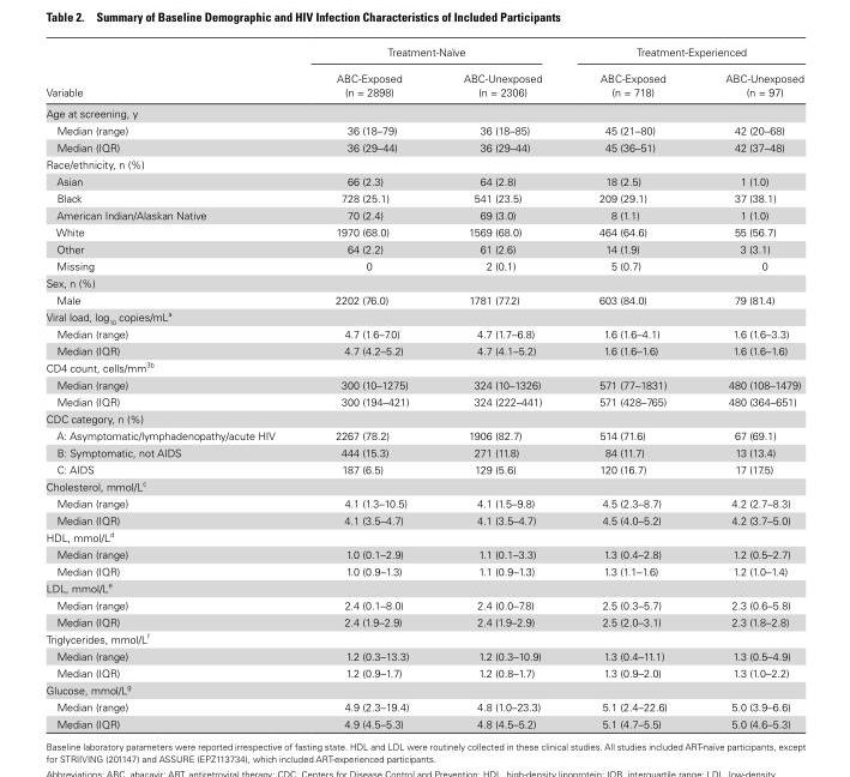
<table><thead><tr><td rowspan="2">Variable</td><td colspan="2">Treatment-Naïve</td><td colspan="2">Treatment-Experienced</td></tr><tr><td>ABC-Exposed (n = 2898)</td><td>ABC-Unexposed (n = 2306)</td><td>ABC-Exposed (n = 718)</td><td>ABC-Unexposed (n = 97)</td></tr></thead><tbody><tr><td colspan="5">Age at screening, y</td></tr><tr><td>Median (range)</td><td>36 (18–79)</td><td>36 (18–85)</td><td>45 (21–80)</td><td>42 (20–68)</td></tr><tr><td>Median (IQR)</td><td>36 (29–44)</td><td>36 (29–44)</td><td>45 (36–51)</td><td>42 (37–48)</td></tr><tr><td colspan="5">Race/ethnicity, n (%)</td></tr><tr><td>Asian</td><td>66 (2.3)</td><td>64 (2.8)</td><td>18 (2.5)</td><td>1 (1.0)</td></tr><tr><td>Black</td><td>728 (25.1)</td><td>541 (23.5)</td><td>209 (29.1)</td><td>37 (38.1)</td></tr><tr><td>American Indian/Alaskan Native</td><td>70 (2.4)</td><td>69 (3.0)</td><td>8 (1.1)</td><td>1 (1.0)</td></tr><tr><td>White</td><td>1970 (68.0)</td><td>1569 (68.0)</td><td>464 (64.6)</td><td>55 (56.7)</td></tr><tr><td>Other</td><td>64 (2.2)</td><td>61 (2.6)</td><td>14 (1.9)</td><td>3 (3.1)</td></tr><tr><td>Missing</td><td>0</td><td>2 (0.1)</td><td>5 (0.7)</td><td>0</td></tr><tr><td colspan="5">Sex, n (%)</td></tr><tr><td>Male</td><td>2202 (76.0)</td><td>1781 (77.2)</td><td>603 (84.0)</td><td>79 (81.4)</td></tr><tr><td colspan="5">Viral load, log<sub>10</sub> copies/mL<sup>a</sup></td></tr><tr><td>Median (range)</td><td>4.7 (1.6–7.0)</td><td>4.7 (1.7–6.8)</td><td>1.6 (1.6–4.1)</td><td>1.6 (1.6–3.3)</td></tr><tr><td>Median (IQR)</td><td>4.7 (4.2–5.2)</td><td>4.7 (4.1–5.2)</td><td>1.6 (1.6–1.6)</td><td>1.6 (1.6–1.6)</td></tr><tr><td colspan="5">CD4 count, cells/mm<sup>3b</sup></td></tr><tr><td>Median (range)</td><td>300 (10–1275)</td><td>324 (10–1326)</td><td>571 (77–1831)</td><td>480 (108–1479)</td></tr><tr><td>Median (IQR)</td><td>300 (194–421)</td><td>324 (222–441)</td><td>571 (428–765)</td><td>480 (364–651)</td></tr><tr><td colspan="5">CDC category, n (%)</td></tr><tr><td>A: Asymptomatic/lymphadenopathy/acute HIV</td><td>2267 (78.2)</td><td>1906 (82.7)</td><td>514 (71.6)</td><td>67 (69.1)</td></tr><tr><td>B: Symptomatic, not AIDS</td><td>444 (15.3)</td><td>271 (11.8)</td><td>84 (11.7)</td><td>13 (13.4)</td></tr><tr><td>C: AIDS</td><td>187 (6.5)</td><td>129 (5.6)</td><td>120 (16.7)</td><td>17 (17.5)</td></tr><tr><td colspan="5">Cholesterol, mmol/L<sup>c</sup></td></tr><tr><td>Median (range)</td><td>4.1 (1.3–10.5)</td><td>4.1 (1.5–9.8)</td><td>4.5 (2.3–8.7)</td><td>4.2 (2.7–8.3)</td></tr><tr><td>Median (IQR)</td><td>4.1 (3.5–4.7)</td><td>4.1 (3.5–4.7)</td><td>4.5 (4.0–5.2)</td><td>4.2 (3.7–5.0)</td></tr><tr><td colspan="5">HDL, mmol/L<sup>d</sup></td></tr><tr><td>Median (range)</td><td>1.0 (0.1–2.9)</td><td>1.1 (0.1–3.3)</td><td>1.3 (0.4–2.8)</td><td>1.2 (0.5–2.7)</td></tr><tr><td>Median (IQR)</td><td>1.0 (0.9–1.3)</td><td>1.1 (0.9–1.3)</td><td>1.3 (1.1–1.6)</td><td>1.2 (1.0–1.4)</td></tr><tr><td colspan="5">LDL, mmol/L<sup>e</sup></td></tr><tr><td>Median (range)</td><td>2.4 (0.1–8.0)</td><td>2.4 (0.0–7.8)</td><td>2.5 (0.3–5.7)</td><td>2.3 (0.6–5.8)</td></tr><tr><td>Median (IQR)</td><td>2.4 (1.9–2.9)</td><td>2.4 (1.9–2.9)</td><td>2.5 (2.0–3.1)</td><td>2.3 (1.8–2.8)</td></tr><tr><td colspan="5">Triglycerides, mmol/L<sup>f</sup></td></tr><tr><td>Median (range)</td><td>1.2 (0.3–13.3)</td><td>1.2 (0.3–10.9)</td><td>1.3 (0.4–11.1)</td><td>1.3 (0.5–4.9)</td></tr><tr><td>Median (IQR)</td><td>1.2 (0.9–1.7)</td><td>1.2 (0.8–1.7)</td><td>1.3 (0.9–2.0)</td><td>1.3 (1.0–2.2)</td></tr><tr><td colspan="5">Glucose, mmol/L<sup>g</sup></td></tr><tr><td>Median (range)</td><td>4.9 (2.3–19.4)</td><td>4.8 (1.0–23.3)</td><td>5.1 (2.4–22.6)</td><td>5.0 (3.9–6.6)</td></tr><tr><td>Median (IQR)</td><td>4.9 (4.5–5.3)</td><td>4.8 (4.5–5.2)</td><td>5.1 (4.7–5.5)</td><td>5.0 (4.6–5.3)</td></tr></tbody></table>